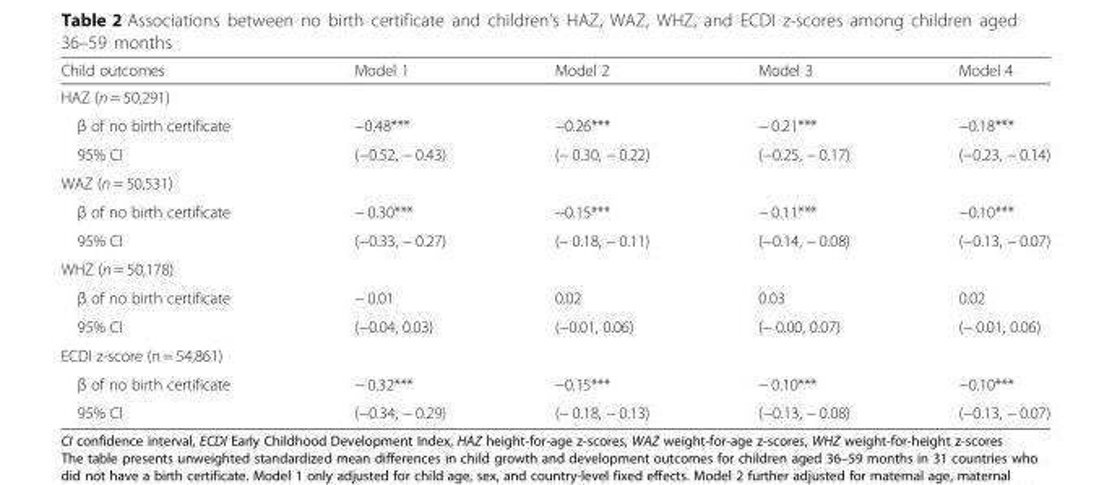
<table><thead><tr><td>Child outcomes</td><td>Model 1</td><td>Model 2</td><td>Model 3</td><td>Model 4</td></tr></thead><tbody><tr><td colspan="5">HAZ (n = 50,291)</td></tr><tr><td>β of no birth certificate</td><td>−0.48***</td><td>−0.26***</td><td>− 0.21***</td><td>−0.18***</td></tr><tr><td>95% CI</td><td>(−0.52, − 0.43)</td><td>(− 0.30, − 0.22)</td><td>(−0.25, − 0.17)</td><td>(−0.23, − 0.14)</td></tr><tr><td colspan="5">WAZ (n = 50,531)</td></tr><tr><td>β of no birth certificate</td><td>− 0.30***</td><td>−0.15***</td><td>− 0.11***</td><td>−0.10***</td></tr><tr><td>95% CI</td><td>(−0.33, − 0.27)</td><td>(− 0.18, − 0.11)</td><td>(−0.14, − 0.08)</td><td>(−0.13, − 0.07)</td></tr><tr><td colspan="5">WHZ (n = 50,178)</td></tr><tr><td>β of no birth certificate</td><td>− 0.01</td><td>0.02</td><td>0.03</td><td>0.02</td></tr><tr><td>95% CI</td><td>(−0.04, 0.03)</td><td>(−0.01, 0.06)</td><td>(− 0.00, 0.07)</td><td>(− 0.01, 0.06)</td></tr><tr><td colspan="5">ECDI z-score (n = 54,861)</td></tr><tr><td>β of no birth certificate</td><td>− 0.32***</td><td>−0.15***</td><td>− 0.10***</td><td>−0.10***</td></tr><tr><td>95% CI</td><td>(−0.34, − 0.29)</td><td>(− 0.18, − 0.13)</td><td>(−0.13, − 0.08)</td><td>(−0.13, − 0.07)</td></tr></tbody></table>